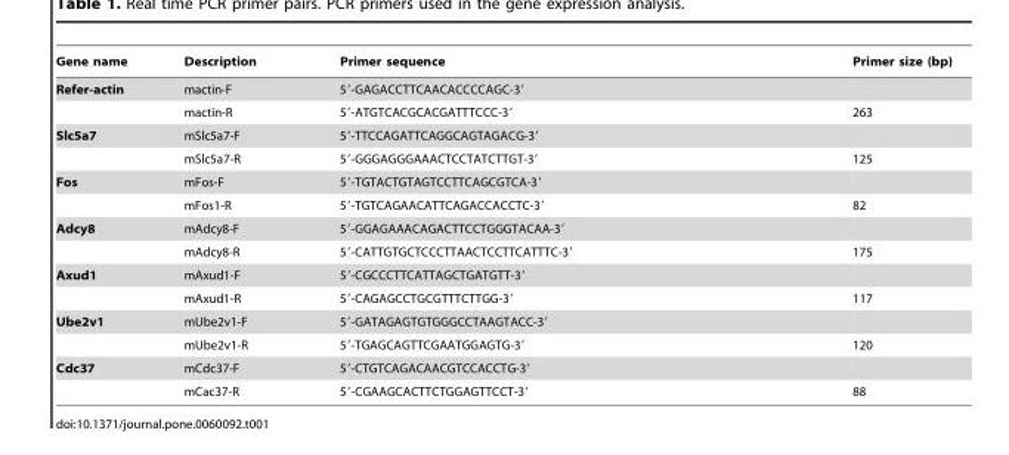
<table><thead><tr><td>Gene name</td><td>Description</td><td>Primer sequence</td><td>Primer size (bp)</td></tr></thead><tbody><tr><td rowspan="2">Refer-actin</td><td>mactin-F</td><td>5′-GAGACCTTCAACACCCCAGC-3′</td><td></td></tr><tr><td>mactin-R</td><td>5′-ATGTCACGCACGATTTCCC-3′</td><td>263</td></tr><tr><td rowspan="2">Slc5a7</td><td>mSlc5a7-F</td><td>5′-TTCCAGATTCAGGCAGTAGACG-3′</td><td></td></tr><tr><td>mSlc5a7-R</td><td>5′-GGGAGGGAAACTCCTATCTTGT-3′</td><td>125</td></tr><tr><td rowspan="2">Fos</td><td>mFos-F</td><td>5′-TGTACTGTAGTCCTTCAGCGTCA-3′</td><td></td></tr><tr><td>mFos1-R</td><td>5′-TGTCAGAACATTCAGACCACCTC-3′</td><td>82</td></tr><tr><td rowspan="2">Adcy8</td><td>mAdcy8-F</td><td>5′-GGAGAAACAGACTTCCTGGGTACAA-3′</td><td></td></tr><tr><td>mAdcy8-R</td><td>5′-CATTGTGCTCCCTTAACTCCTTCATTTC-3′</td><td>175</td></tr><tr><td rowspan="2">Axud1</td><td>mAxud1-F</td><td>5′-CGCCCTTCATTAGCTGATGTT-3′</td><td></td></tr><tr><td>mAxud1-R</td><td>5′-CAGAGCCTGCGTTTCTTGG-3′</td><td>117</td></tr><tr><td rowspan="2">Ube2v1</td><td>mUbe2v1-F</td><td>5′-GATAGAGTGTGGGCCTAAGTACC-3′</td><td></td></tr><tr><td>mUbe2v1-R</td><td>5′-TGAGCAGTTCGAATGGAGTG-3′</td><td>120</td></tr><tr><td rowspan="2">Cdc37</td><td>mCdc37-F</td><td>5′-CTGTCAGACAACGTCCACCTG-3′</td><td></td></tr><tr><td>mCac37-R</td><td>5′-CGAAGCACTTCTGGAGTTCCT-3′</td><td>88</td></tr></tbody></table>